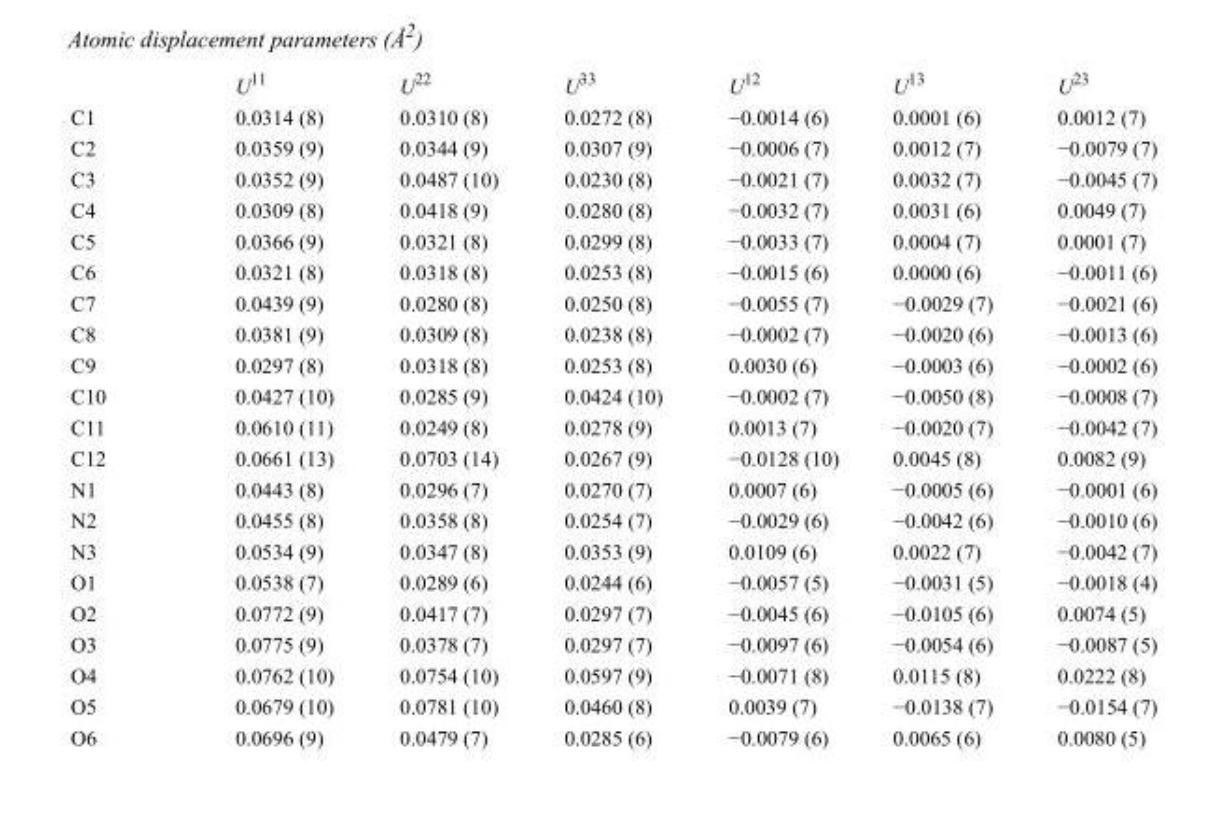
<table><thead><tr><td></td><td>U<sup>11</sup></td><td>U<sup>22</sup></td><td>U<sup>33</sup></td><td>U<sup>12</sup></td><td>U<sup>13</sup></td><td>U<sup>23</sup></td></tr></thead><tbody><tr><td>C1</td><td>0.0314 (8)</td><td>0.0310 (8)</td><td>0.0272 (8)</td><td>−0.0014 (6)</td><td>0.0001 (6)</td><td>0.0012 (7)</td></tr><tr><td>C2</td><td>0.0359 (9)</td><td>0.0344 (9)</td><td>0.0307 (9)</td><td>−0.0006 (7)</td><td>0.0012 (7)</td><td>−0.0079 (7)</td></tr><tr><td>C3</td><td>0.0352 (9)</td><td>0.0487 (10)</td><td>0.0230 (8)</td><td>−0.0021 (7)</td><td>0.0032 (7)</td><td>−0.0045 (7)</td></tr><tr><td>C4</td><td>0.0309 (8)</td><td>0.0418 (9)</td><td>0.0280 (8)</td><td>−0.0032 (7)</td><td>0.0031 (6)</td><td>0.0049 (7)</td></tr><tr><td>C5</td><td>0.0366 (9)</td><td>0.0321 (8)</td><td>0.0299 (8)</td><td>−0.0033 (7)</td><td>0.0004 (7)</td><td>0.0001 (7)</td></tr><tr><td>C6</td><td>0.0321 (8)</td><td>0.0318 (8)</td><td>0.0253 (8)</td><td>−0.0015 (6)</td><td>0.0000 (6)</td><td>−0.0011 (6)</td></tr><tr><td>C7</td><td>0.0439 (9)</td><td>0.0280 (8)</td><td>0.0250 (8)</td><td>−0.0055 (7)</td><td>−0.0029 (7)</td><td>−0.0021 (6)</td></tr><tr><td>C8</td><td>0.0381 (9)</td><td>0.0309 (8)</td><td>0.0238 (8)</td><td>−0.0002 (7)</td><td>−0.0020 (6)</td><td>−0.0013 (6)</td></tr><tr><td>C9</td><td>0.0297 (8)</td><td>0.0318 (8)</td><td>0.0253 (8)</td><td>0.0030 (6)</td><td>−0.0003 (6)</td><td>−0.0002 (6)</td></tr><tr><td>C10</td><td>0.0427 (10)</td><td>0.0285 (9)</td><td>0.0424 (10)</td><td>−0.0002 (7)</td><td>−0.0050 (8)</td><td>−0.0008 (7)</td></tr><tr><td>C11</td><td>0.0610 (11)</td><td>0.0249 (8)</td><td>0.0278 (9)</td><td>0.0013 (7)</td><td>−0.0020 (7)</td><td>−0.0042 (7)</td></tr><tr><td>C12</td><td>0.0661 (13)</td><td>0.0703 (14)</td><td>0.0267 (9)</td><td>−0.0128 (10)</td><td>0.0045 (8)</td><td>0.0082 (9)</td></tr><tr><td>N1</td><td>0.0443 (8)</td><td>0.0296 (7)</td><td>0.0270 (7)</td><td>0.0007 (6)</td><td>−0.0005 (6)</td><td>−0.0001 (6)</td></tr><tr><td>N2</td><td>0.0455 (8)</td><td>0.0358 (8)</td><td>0.0254 (7)</td><td>−0.0029 (6)</td><td>−0.0042 (6)</td><td>−0.0010 (6)</td></tr><tr><td>N3</td><td>0.0534 (9)</td><td>0.0347 (8)</td><td>0.0353 (9)</td><td>0.0109 (6)</td><td>0.0022 (7)</td><td>−0.0042 (7)</td></tr><tr><td>O1</td><td>0.0538 (7)</td><td>0.0289 (6)</td><td>0.0244 (6)</td><td>−0.0057 (5)</td><td>−0.0031 (5)</td><td>−0.0018 (4)</td></tr><tr><td>O2</td><td>0.0772 (9)</td><td>0.0417 (7)</td><td>0.0297 (7)</td><td>−0.0045 (6)</td><td>−0.0105 (6)</td><td>0.0074 (5)</td></tr><tr><td>O3</td><td>0.0775 (9)</td><td>0.0378 (7)</td><td>0.0297 (7)</td><td>−0.0097 (6)</td><td>−0.0054 (6)</td><td>−0.0087 (5)</td></tr><tr><td>O4</td><td>0.0762 (10)</td><td>0.0754 (10)</td><td>0.0597 (9)</td><td>−0.0071 (8)</td><td>0.0115 (8)</td><td>0.0222 (8)</td></tr><tr><td>O5</td><td>0.0679 (10)</td><td>0.0781 (10)</td><td>0.0460 (8)</td><td>0.0039 (7)</td><td>−0.0138 (7)</td><td>−0.0154 (7)</td></tr><tr><td>O6</td><td>0.0696 (9)</td><td>0.0479 (7)</td><td>0.0285 (6)</td><td>−0.0079 (6)</td><td>0.0065 (6)</td><td>0.0080 (5)</td></tr></tbody></table>